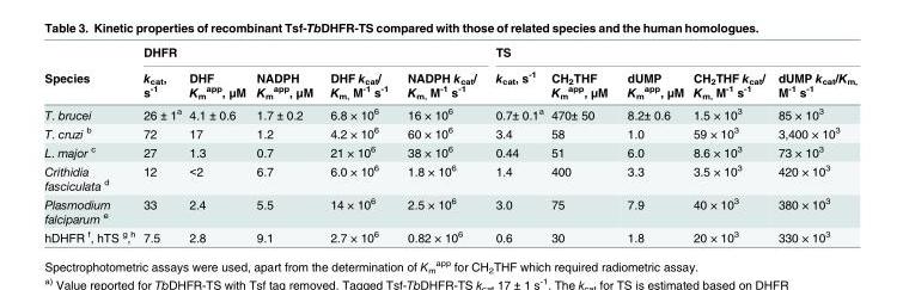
<table><thead><tr><td rowspan="2">Species</td><td colspan="5">DHFR</td><td colspan="5">TS</td></tr><tr><td>k<sub>cat</sub>, s<sup>-1</sup></td><td>DHF K<sub>m</sub> <sup>app</sup>, μM</td><td>NADPH K<sub>m</sub> <sup>app</sup>, μM</td><td>DHF k<sub>cat</sub>/ K<sub>m,</sub> M<sup>-1</sup> s<sup>-1</sup></td><td>NADPH k<sub>cat</sub>/ K<sub>m,</sub> M<sup>-1</sup> s<sup>-1</sup></td><td>k<sub>cat</sub>, s<sup>-1</sup></td><td>CH<sub>2</sub>THF K<sub>m</sub> <sup>app</sup>, μM</td><td>dUMP K<sub>m</sub> <sup>app</sup>, μM</td><td>CH<sub>2</sub>THF k<sub>cat</sub>/ K<sub>m,</sub> M<sup>-1</sup> s<sup>-1</sup></td><td>dUMP k<sub>cat</sub>/K<sub>m,</sub> M<sup>-1</sup> s<sup>-1</sup></td></tr></thead><tbody><tr><td>T. brucei</td><td>26 ± 1<sup>a</sup></td><td>4.1 ± 0.6</td><td>1.7 ± 0.2</td><td>6.8 × 10<sup>6</sup></td><td>16 × 10<sup>6</sup></td><td>0.7± 0.1<sup>a</sup></td><td>470± 50</td><td>8.2± 0.6</td><td>1.5 × 10<sup>3</sup></td><td>85 × 10<sup>3</sup></td></tr><tr><td>T. cruzi <sup>b</sup></td><td>72</td><td>17</td><td>1.2</td><td>4.2 × 10<sup>6</sup></td><td>60 × 10<sup>6</sup></td><td>3.4</td><td>58</td><td>1.0</td><td>59 × 10<sup>3</sup></td><td>3,400 × 10<sup>3</sup></td></tr><tr><td>L. major <sup>c</sup></td><td>27</td><td>1.3</td><td>0.7</td><td>21 × 10<sup>6</sup></td><td>38 × 10<sup>6</sup></td><td>0.44</td><td>51</td><td>6.0</td><td>8.6 × 10<sup>3</sup></td><td>73 × 10<sup>3</sup></td></tr><tr><td>Crithidia fasciculata <sup>d</sup></td><td>12</td><td>&lt;2</td><td>6.7</td><td>6.0 × 10<sup>6</sup></td><td>1.8 × 10<sup>6</sup></td><td>1.4</td><td>400</td><td>3.3</td><td>3.5 × 10<sup>3</sup></td><td>420 × 10<sup>3</sup></td></tr><tr><td>Plasmodium falciparum <sup>e</sup></td><td>33</td><td>2.4</td><td>5.5</td><td>14 × 10<sup>6</sup></td><td>2.5 × 10<sup>6</sup></td><td>3.0</td><td>75</td><td>7.9</td><td>40 × 10<sup>3</sup></td><td>380 × 10<sup>3</sup></td></tr><tr><td>hDHFR <sup>f</sup>, hTS <sup>g</sup>,<sup>h</sup></td><td>7.5</td><td>2.8</td><td>9.1</td><td>2.7 × 10<sup>6</sup></td><td>0.82 × 10<sup>6</sup></td><td>0.6</td><td>30</td><td>1.8</td><td>20 × 10<sup>3</sup></td><td>330 × 10<sup>3</sup></td></tr></tbody></table>